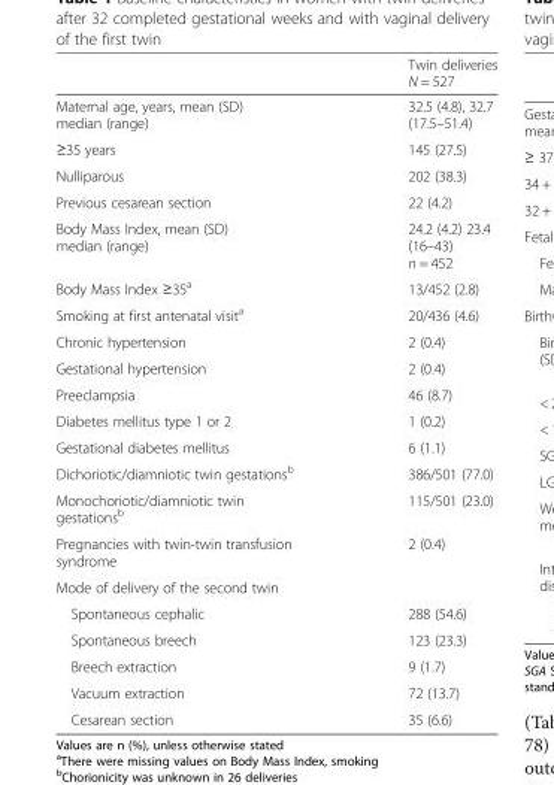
<table><thead><tr><td></td><td>Twin deliveries N = 527</td></tr></thead><tbody><tr><td>Maternal age, years, mean (SD) median (range)</td><td>32.5 (4.8), 32.7 (17.5–51.4)</td></tr><tr><td>≥35 years</td><td>145 (27.5)</td></tr><tr><td>Nulliparous</td><td>202 (38.3)</td></tr><tr><td>Previous cesarean section</td><td>22 (4.2)</td></tr><tr><td>Body Mass Index, mean (SD) median (range)</td><td>24.2 (4.2) 23.4 (16–43) n = 452</td></tr><tr><td>Body Mass Index ≥35<sup>a</sup></td><td>13/452 (2.8)</td></tr><tr><td>Smoking at first antenatal visit<sup>a</sup></td><td>20/436 (4.6)</td></tr><tr><td>Chronic hypertension</td><td>2 (0.4)</td></tr><tr><td>Gestational hypertension</td><td>2 (0.4)</td></tr><tr><td>Preeclampsia</td><td>46 (8.7)</td></tr><tr><td>Diabetes mellitus type 1 or 2</td><td>1 (0.2)</td></tr><tr><td>Gestational diabetes mellitus</td><td>6 (1.1)</td></tr><tr><td>Dichoriotic/diamniotic twin gestations<sup>b</sup></td><td>386/501 (77.0)</td></tr><tr><td>Monochoriotic/diamniotic twin gestations<sup>b</sup></td><td>115/501 (23.0)</td></tr><tr><td>Pregnancies with twin-twin transfusion syndrome</td><td>2 (0.4)</td></tr><tr><td colspan="2">Mode of delivery of the second twin</td></tr><tr><td>Spontaneous cephalic</td><td>288 (54.6)</td></tr><tr><td>Spontaneous breech</td><td>123 (23.3)</td></tr><tr><td>Breech extraction</td><td>9 (1.7)</td></tr><tr><td>Vacuum extraction</td><td>72 (13.7)</td></tr><tr><td>Cesarean section</td><td>35 (6.6)</td></tr></tbody></table>